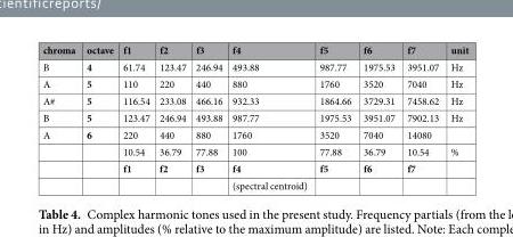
<table><thead><tr><td>chroma</td><td>octave</td><td>f1</td><td>f2</td><td>f3</td><td>f4</td><td>f5</td><td>f6</td><td>f7</td><td>unit</td></tr></thead><tbody><tr><td>B</td><td>4</td><td>61.74</td><td>123.47</td><td>246.94</td><td>493.88</td><td>987.77</td><td>1975.53</td><td>3951.07</td><td>Hz</td></tr><tr><td>A</td><td>5</td><td>110</td><td>220</td><td>440</td><td>880</td><td>1760</td><td>3520</td><td>7040</td><td>Hz</td></tr><tr><td>A#</td><td>5</td><td>116.54</td><td>233.08</td><td>466.16</td><td>932.33</td><td>1864.66</td><td>3729.31</td><td>7458.62</td><td>Hz</td></tr><tr><td>B</td><td>5</td><td>123.47</td><td>246.94</td><td>493.88</td><td>987.77</td><td>1975.53</td><td>3951.07</td><td>7902.13</td><td>Hz</td></tr><tr><td rowspan="4">A</td><td>6</td><td>220</td><td>440</td><td>880</td><td>1760</td><td>3520</td><td>7040</td><td>14080</td><td></td></tr><tr><td></td><td>10.54</td><td>36.79</td><td>77.88</td><td>100</td><td>77.88</td><td>36.79</td><td>10.54</td><td>%</td></tr><tr><td></td><td>f1</td><td>f2</td><td>f3</td><td>f4</td><td>f5</td><td>f6</td><td>f7</td><td></td></tr><tr><td></td><td></td><td></td><td></td><td>(spectral centroid)</td><td></td><td></td><td></td><td></td></tr></tbody></table>